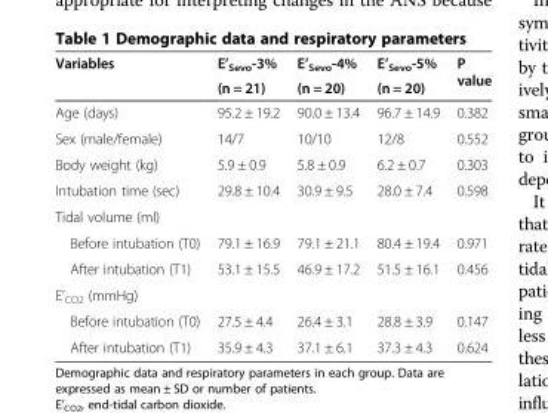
<table><thead><tr><td rowspan="2">Variables</td><td rowspan="2">E’<sub>Sevo</sub>-3% (n = 21)</td><td rowspan="2">E’<sub>Sevo</sub>-4% (n = 20)</td><td rowspan="2">E’<sub>Sevo</sub>-5% (n = 20)</td><td rowspan="2">P value</td></tr><tr></tr></thead><tbody><tr><td>Age (days)</td><td>95.2 ± 19.2</td><td>90.0 ± 13.4</td><td>96.7 ± 14.9</td><td>0.382</td></tr><tr><td>Sex (male/female)</td><td>14/7</td><td>10/10</td><td>12/8</td><td>0.552</td></tr><tr><td>Body weight (kg)</td><td>5.9 ± 0.9</td><td>5.8 ± 0.9</td><td>6.2 ± 0.7</td><td>0.303</td></tr><tr><td>Intubation time (sec)</td><td>29.8 ± 10.4</td><td>30.9 ± 9.5</td><td>28.0 ± 7.4</td><td>0.598</td></tr><tr><td colspan="5">Tidal volume (ml)</td></tr><tr><td>Before intubation (T0)</td><td>79.1 ± 16.9</td><td>79.1 ± 21.1</td><td>80.4 ± 19.4</td><td>0.971</td></tr><tr><td>After intubation (T1)</td><td>53.1 ± 15.5</td><td>46.9 ± 17.2</td><td>51.5 ± 16.1</td><td>0.456</td></tr><tr><td colspan="5">E’<sub>CO2</sub> (mmHg)</td></tr><tr><td>Before intubation (T0)</td><td>27.5 ± 4.4</td><td>26.4 ± 3.1</td><td>28.8 ± 3.9</td><td>0.147</td></tr><tr><td>After intubation (T1)</td><td>35.9 ± 4.3</td><td>37.1 ± 6.1</td><td>37.3 ± 4.3</td><td>0.624</td></tr></tbody></table>